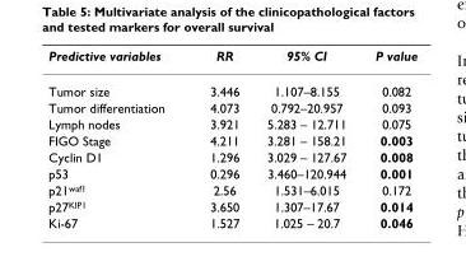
<table><thead><tr><td>Predictive variables</td><td>RR</td><td>95% CI</td><td>P value</td></tr></thead><tbody><tr><td>Tumor size</td><td>3.446</td><td>1.107–8.155</td><td>0.082</td></tr><tr><td>Tumor differentiation</td><td>4.073</td><td>0.792–20.957</td><td>0.093</td></tr><tr><td>Lymph nodes</td><td>3.921</td><td>5.283 – 12.711</td><td>0.075</td></tr><tr><td>FIGO Stage</td><td>4.211</td><td>3.281 – 158.21</td><td>0.003</td></tr><tr><td>Cyclin D1</td><td>1.296</td><td>3.029 – 127.67</td><td>0.008</td></tr><tr><td>p53</td><td>0.296</td><td>3.460–120.944</td><td>0.001</td></tr><tr><td>p21waf1</td><td>2.56</td><td>1.531–6.015</td><td>0.172</td></tr><tr><td>p27KIP1</td><td>3.650</td><td>1.307–17.67</td><td>0.014</td></tr><tr><td>Ki-67</td><td>1.527</td><td>1.025 – 20.7</td><td>0.046</td></tr></tbody></table>